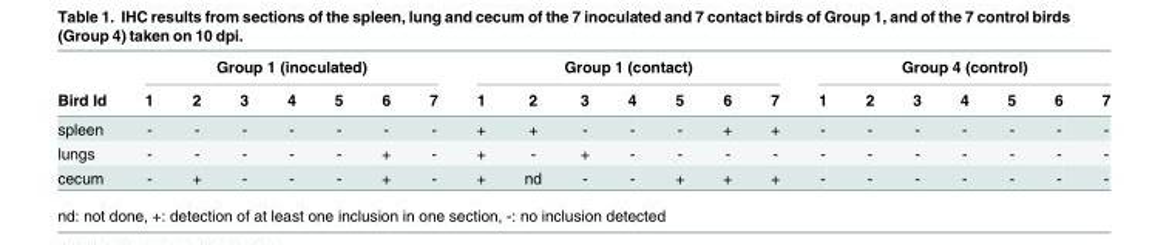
<table><thead><tr><td rowspan="2">Bird Id</td><td colspan="7">Group 1 (inoculated)</td><td colspan="7">Group 1 (contact)</td><td colspan="7">Group 4 (control)</td></tr><tr><td>1</td><td>2</td><td>3</td><td>4</td><td>5</td><td>6</td><td>7</td><td>1</td><td>2</td><td>3</td><td>4</td><td>5</td><td>6</td><td>7</td><td>1</td><td>2</td><td>3</td><td>4</td><td>5</td><td>6</td><td>7</td></tr></thead><tbody><tr><td>spleen</td><td>-</td><td>-</td><td>-</td><td>-</td><td>-</td><td>-</td><td>-</td><td>+</td><td>+</td><td>-</td><td>-</td><td>-</td><td>+</td><td>+</td><td>-</td><td>-</td><td>-</td><td>-</td><td>-</td><td>-</td><td>-</td></tr><tr><td>lungs</td><td>-</td><td>-</td><td>-</td><td>-</td><td>-</td><td>+</td><td>-</td><td>+</td><td>-</td><td>+</td><td>-</td><td>-</td><td>-</td><td>-</td><td>-</td><td>-</td><td>-</td><td>-</td><td>-</td><td>-</td><td>-</td></tr><tr><td>cecum</td><td>-</td><td>+</td><td>-</td><td>-</td><td>-</td><td>+</td><td>-</td><td>+</td><td>nd</td><td>-</td><td>-</td><td>+</td><td>+</td><td>+</td><td>-</td><td>-</td><td>-</td><td>-</td><td>-</td><td>-</td><td>-</td></tr></tbody></table>